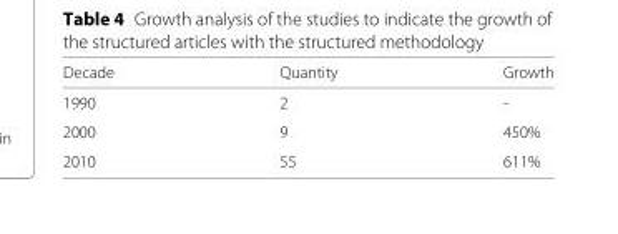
<table><thead><tr><td>Decade</td><td>Quantity</td><td>Growth</td></tr></thead><tbody><tr><td>1990</td><td>2</td><td>-</td></tr><tr><td>2000</td><td>9</td><td>450%</td></tr><tr><td>2010</td><td>55</td><td>611%</td></tr></tbody></table>